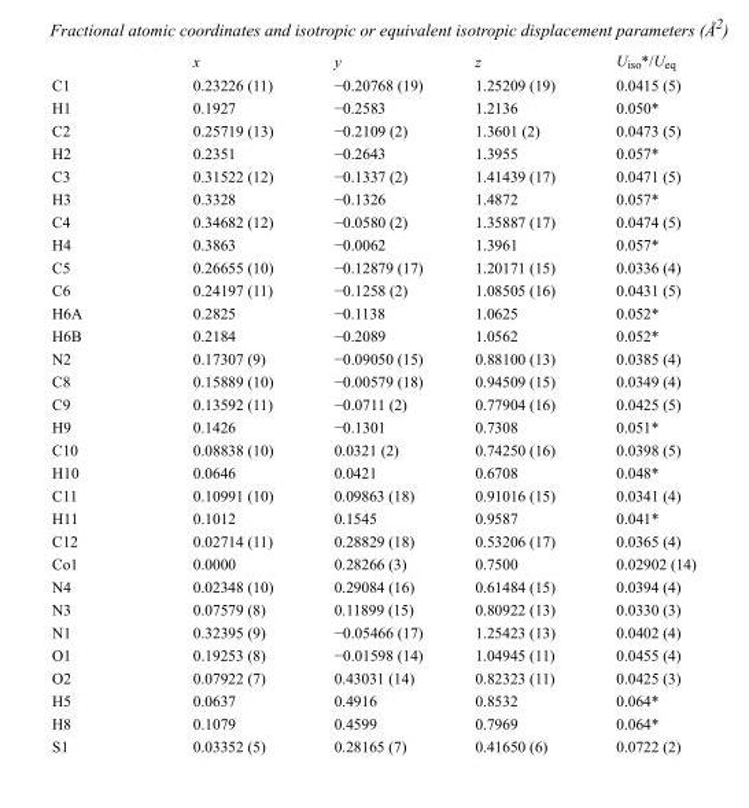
<table><thead><tr><td></td><td>x</td><td>y</td><td>z</td><td>U<sub>iso</sub>*/U<sub>eq</sub></td></tr></thead><tbody><tr><td>C1</td><td>0.23226 (11)</td><td>−0.20768 (19)</td><td>1.25209 (19)</td><td>0.0415 (5)</td></tr><tr><td>H1</td><td>0.1927</td><td>−0.2583</td><td>1.2136</td><td>0.050*</td></tr><tr><td>C2</td><td>0.25719 (13)</td><td>−0.2109 (2)</td><td>1.3601 (2)</td><td>0.0473 (5)</td></tr><tr><td>H2</td><td>0.2351</td><td>−0.2643</td><td>1.3955</td><td>0.057*</td></tr><tr><td>C3</td><td>0.31522 (12)</td><td>−0.1337 (2)</td><td>1.41439 (17)</td><td>0.0471 (5)</td></tr><tr><td>H3</td><td>0.3328</td><td>−0.1326</td><td>1.4872</td><td>0.057*</td></tr><tr><td>C4</td><td>0.34682 (12)</td><td>−0.0580 (2)</td><td>1.35887 (17)</td><td>0.0474 (5)</td></tr><tr><td>H4</td><td>0.3863</td><td>−0.0062</td><td>1.3961</td><td>0.057*</td></tr><tr><td>C5</td><td>0.26655 (10)</td><td>−0.12879 (17)</td><td>1.20171 (15)</td><td>0.0336 (4)</td></tr><tr><td>C6</td><td>0.24197 (11)</td><td>−0.1258 (2)</td><td>1.08505 (16)</td><td>0.0431 (5)</td></tr><tr><td>H6A</td><td>0.2825</td><td>−0.1138</td><td>1.0625</td><td>0.052*</td></tr><tr><td>H6B</td><td>0.2184</td><td>−0.2089</td><td>1.0562</td><td>0.052*</td></tr><tr><td>N2</td><td>0.17307 (9)</td><td>−0.09050 (15)</td><td>0.88100 (13)</td><td>0.0385 (4)</td></tr><tr><td>C8</td><td>0.15889 (10)</td><td>−0.00579 (18)</td><td>0.94509 (15)</td><td>0.0349 (4)</td></tr><tr><td>C9</td><td>0.13592 (11)</td><td>−0.0711 (2)</td><td>0.77904 (16)</td><td>0.0425 (5)</td></tr><tr><td>H9</td><td>0.1426</td><td>−0.1301</td><td>0.7308</td><td>0.051*</td></tr><tr><td>C10</td><td>0.08838 (10)</td><td>0.0321 (2)</td><td>0.74250 (16)</td><td>0.0398 (5)</td></tr><tr><td>H10</td><td>0.0646</td><td>0.0421</td><td>0.6708</td><td>0.048*</td></tr><tr><td>C11</td><td>0.10991 (10)</td><td>0.09863 (18)</td><td>0.91016 (15)</td><td>0.0341 (4)</td></tr><tr><td>H11</td><td>0.1012</td><td>0.1545</td><td>0.9587</td><td>0.041*</td></tr><tr><td>C12</td><td>0.02714 (11)</td><td>0.28829 (18)</td><td>0.53206 (17)</td><td>0.0365 (4)</td></tr><tr><td>Co1</td><td>0.0000</td><td>0.28266 (3)</td><td>0.7500</td><td>0.02902 (14)</td></tr><tr><td>N4</td><td>0.02348 (10)</td><td>0.29084 (16)</td><td>0.61484 (15)</td><td>0.0394 (4)</td></tr><tr><td>N3</td><td>0.07579 (8)</td><td>0.11899 (15)</td><td>0.80922 (13)</td><td>0.0330 (3)</td></tr><tr><td>N1</td><td>0.32395 (9)</td><td>−0.05466 (17)</td><td>1.25423 (13)</td><td>0.0402 (4)</td></tr><tr><td>O1</td><td>0.19253 (8)</td><td>−0.01598 (14)</td><td>1.04945 (11)</td><td>0.0455 (4)</td></tr><tr><td>O2</td><td>0.07922 (7)</td><td>0.43031 (14)</td><td>0.82323 (11)</td><td>0.0425 (3)</td></tr><tr><td>H5</td><td>0.0637</td><td>0.4916</td><td>0.8532</td><td>0.064*</td></tr><tr><td>H8</td><td>0.1079</td><td>0.4599</td><td>0.7969</td><td>0.064*</td></tr><tr><td>S1</td><td>0.03352 (5)</td><td>0.28165 (7)</td><td>0.41650 (6)</td><td>0.0722 (2)</td></tr></tbody></table>